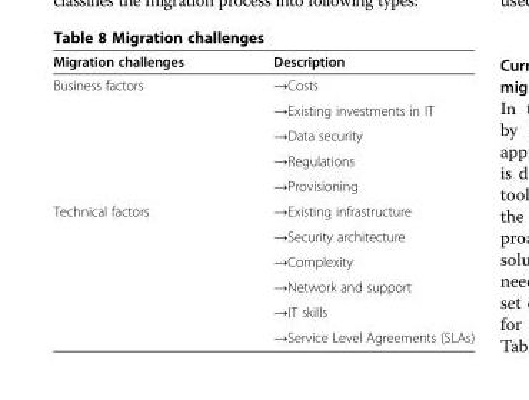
<table><thead><tr><td>Migration challenges</td><td>Description</td></tr></thead><tbody><tr><td rowspan="5">Business factors</td><td>→Costs</td></tr><tr><td>→Existing investments in IT</td></tr><tr><td>→Data security</td></tr><tr><td>→Regulations</td></tr><tr><td>→Provisioning</td></tr><tr><td rowspan="6">Technical factors</td><td>→Existing infrastructure</td></tr><tr><td>→Security architecture</td></tr><tr><td>→Complexity</td></tr><tr><td>→Network and support</td></tr><tr><td>→IT skills</td></tr><tr><td>→Service Level Agreements (SLAs)</td></tr></tbody></table>